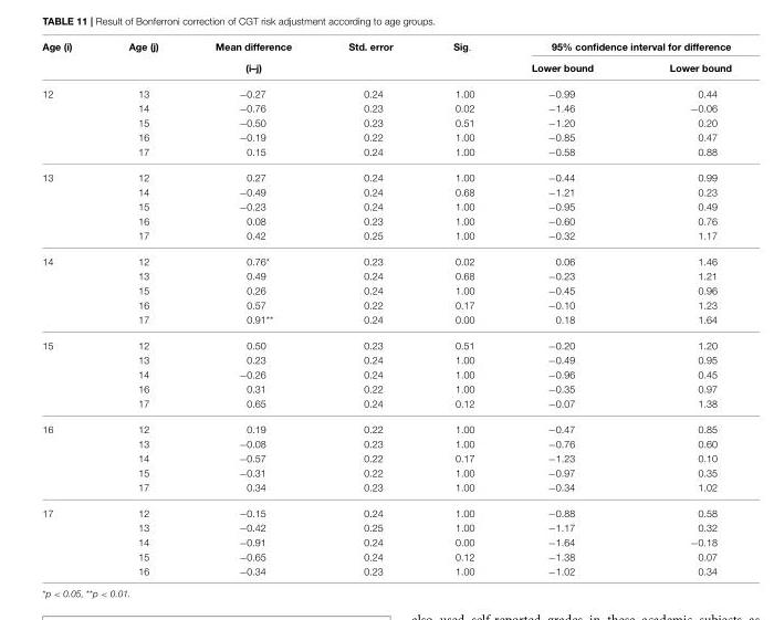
<table><thead><tr><td rowspan="2">Age (i)</td><td rowspan="2">Age (j)</td><td rowspan="2">Mean difference (i–j)</td><td rowspan="2">Std. error</td><td rowspan="2">Sig.</td><td colspan="2">95% confidence interval for difference</td></tr><tr><td>Lower bound</td><td>Lower bound</td></tr></thead><tbody><tr><td rowspan="5">12</td><td>13</td><td>−0.27</td><td>0.24</td><td>1.00</td><td>−0.99</td><td>0.44</td></tr><tr><td>14</td><td>−0.76</td><td>0.23</td><td>0.02</td><td>−1.46</td><td>−0.06</td></tr><tr><td>15</td><td>−0.50</td><td>0.23</td><td>0.51</td><td>−1.20</td><td>0.20</td></tr><tr><td>16</td><td>−0.19</td><td>0.22</td><td>1.00</td><td>−0.85</td><td>0.47</td></tr><tr><td>17</td><td>0.15</td><td>0.24</td><td>1.00</td><td>−0.58</td><td>0.88</td></tr><tr><td rowspan="5">13</td><td>12</td><td>0.27</td><td>0.24</td><td>1.00</td><td>−0.44</td><td>0.99</td></tr><tr><td>14</td><td>−0.49</td><td>0.24</td><td>0.68</td><td>−1.21</td><td>0.23</td></tr><tr><td>15</td><td>−0.23</td><td>0.24</td><td>1.00</td><td>−0.95</td><td>0.49</td></tr><tr><td>16</td><td>0.08</td><td>0.23</td><td>1.00</td><td>−0.60</td><td>0.76</td></tr><tr><td>17</td><td>0.42</td><td>0.25</td><td>1.00</td><td>−0.32</td><td>1.17</td></tr><tr><td rowspan="5">14</td><td>12</td><td>0.76*</td><td>0.23</td><td>0.02</td><td>0.06</td><td>1.46</td></tr><tr><td>13</td><td>0.49</td><td>0.24</td><td>0.68</td><td>−0.23</td><td>1.21</td></tr><tr><td>15</td><td>0.26</td><td>0.24</td><td>1.00</td><td>−0.45</td><td>0.96</td></tr><tr><td>16</td><td>0.57</td><td>0.22</td><td>0.17</td><td>−0.10</td><td>1.23</td></tr><tr><td>17</td><td>0.91**</td><td>0.24</td><td>0.00</td><td>0.18</td><td>1.64</td></tr><tr><td rowspan="5">15</td><td>12</td><td>0.50</td><td>0.23</td><td>0.51</td><td>−0.20</td><td>1.20</td></tr><tr><td>13</td><td>0.23</td><td>0.24</td><td>1.00</td><td>−0.49</td><td>0.95</td></tr><tr><td>14</td><td>−0.26</td><td>0.24</td><td>1.00</td><td>−0.96</td><td>0.45</td></tr><tr><td>16</td><td>0.31</td><td>0.22</td><td>1.00</td><td>−0.35</td><td>0.97</td></tr><tr><td>17</td><td>0.65</td><td>0.24</td><td>0.12</td><td>−0.07</td><td>1.38</td></tr><tr><td rowspan="5">16</td><td>12</td><td>0.19</td><td>0.22</td><td>1.00</td><td>−0.47</td><td>0.85</td></tr><tr><td>13</td><td>−0.08</td><td>0.23</td><td>1.00</td><td>−0.76</td><td>0.60</td></tr><tr><td>14</td><td>−0.57</td><td>0.22</td><td>0.17</td><td>−1.23</td><td>0.10</td></tr><tr><td>15</td><td>−0.31</td><td>0.22</td><td>1.00</td><td>−0.97</td><td>0.35</td></tr><tr><td>17</td><td>0.34</td><td>0.23</td><td>1.00</td><td>−0.34</td><td>1.02</td></tr><tr><td rowspan="5">17</td><td>12</td><td>−0.15</td><td>0.24</td><td>1.00</td><td>−0.88</td><td>0.58</td></tr><tr><td>13</td><td>−0.42</td><td>0.25</td><td>1.00</td><td>−1.17</td><td>0.32</td></tr><tr><td>14</td><td>−0.91</td><td>0.24</td><td>0.00</td><td>−1.64</td><td>−0.18</td></tr><tr><td>15</td><td>−0.65</td><td>0.24</td><td>0.12</td><td>−1.38</td><td>0.07</td></tr><tr><td>16</td><td>−0.34</td><td>0.23</td><td>1.00</td><td>−1.02</td><td>0.34</td></tr></tbody></table>